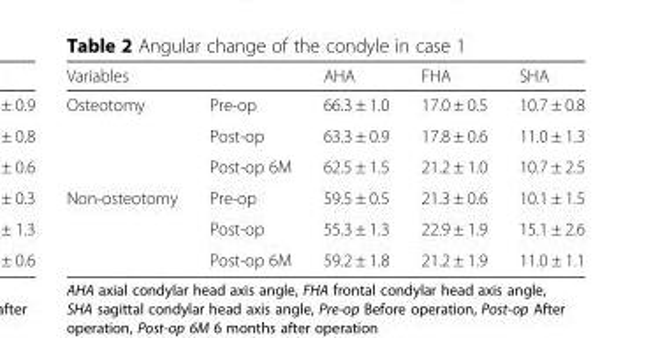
<table><thead><tr><td>Variables</td><td></td><td>AHA</td><td>FHA</td><td>SHA</td></tr></thead><tbody><tr><td rowspan="3">Osteotomy</td><td>Pre-op</td><td>66.3 ± 1.0</td><td>17.0 ± 0.5</td><td>10.7 ± 0.8</td></tr><tr><td>Post-op</td><td>63.3 ± 0.9</td><td>17.8 ± 0.6</td><td>11.0 ± 1.3</td></tr><tr><td>Post-op 6M</td><td>62.5 ± 1.5</td><td>21.2 ± 1.0</td><td>10.7 ± 2.5</td></tr><tr><td rowspan="3">Non-osteotomy</td><td>Pre-op</td><td>59.5 ± 0.5</td><td>21.3 ± 0.6</td><td>10.1 ± 1.5</td></tr><tr><td>Post-op</td><td>55.3 ± 1.3</td><td>22.9 ± 1.9</td><td>15.1 ± 2.6</td></tr><tr><td>Post-op 6M</td><td>59.2 ± 1.8</td><td>21.2 ± 1.9</td><td>11.0 ± 1.1</td></tr></tbody></table>